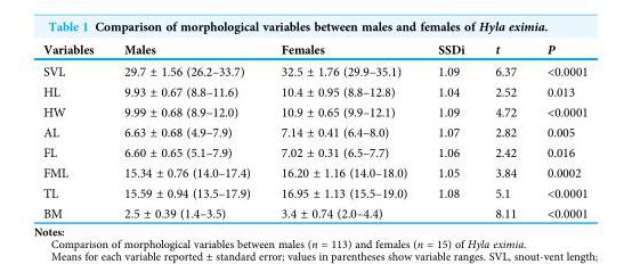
<table><thead><tr><td>Variables</td><td>Males</td><td>Females</td><td>SSDi</td><td>t</td><td>P</td></tr></thead><tbody><tr><td>SVL</td><td>29.7 ± 1.56 (26.2–33.7)</td><td>32.5 ± 1.76 (29.9–35.1)</td><td>1.09</td><td>6.37</td><td>&lt;0.0001</td></tr><tr><td>HL</td><td>9.93 ± 0.67 (8.8–11.6)</td><td>10.4 ± 0.95 (8.8–12.8)</td><td>1.04</td><td>2.52</td><td>0.013</td></tr><tr><td>HW</td><td>9.99 ± 0.68 (8.9–12.0)</td><td>10.9 ± 0.65 (9.9–12.1)</td><td>1.09</td><td>4.72</td><td>&lt;0.0001</td></tr><tr><td>AL</td><td>6.63 ± 0.68 (4.9–7.9)</td><td>7.14 ± 0.41 (6.4–8.0)</td><td>1.07</td><td>2.82</td><td>0.005</td></tr><tr><td>FL</td><td>6.60 ± 0.65 (5.1–7.9)</td><td>7.02 ± 0.31 (6.5–7.7)</td><td>1.06</td><td>2.42</td><td>0.016</td></tr><tr><td>FML</td><td>15.34 ± 0.76 (14.0–17.4)</td><td>16.20 ± 1.16 (14.0–18.0)</td><td>1.05</td><td>3.84</td><td>0.0002</td></tr><tr><td>TL</td><td>15.59 ± 0.94 (13.5–17.9)</td><td>16.95 ± 1.13 (15.5–19.0)</td><td>1.08</td><td>5.1</td><td>&lt;0.0001</td></tr><tr><td>BM</td><td>2.5 ± 0.39 (1.4–3.5)</td><td>3.4 ± 0.74 (2.0–4.4)</td><td></td><td>8.11</td><td>&lt;0.0001</td></tr></tbody></table>